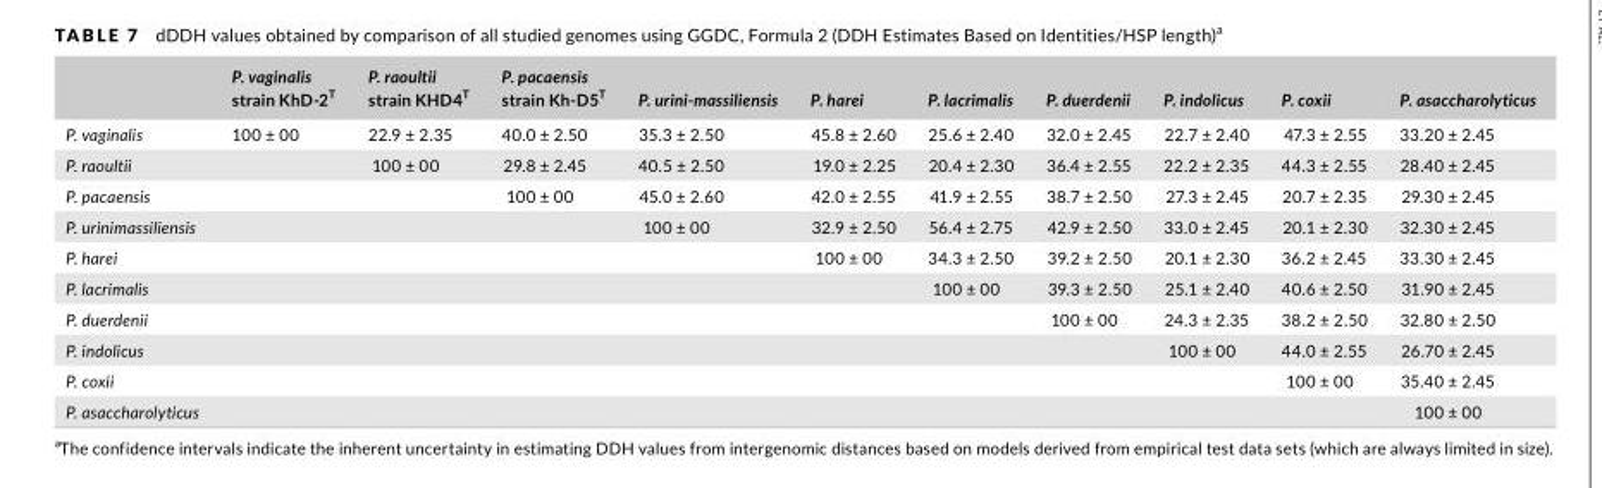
<table><thead><tr><td></td><td>P. vaginalis strain KhD- 2<sup>T</sup></td><td>P. raoultii strain KHD4<sup>T</sup></td><td>P. pacaensis strain Kh- D5<sup>T</sup></td><td>P. urini-massiliensis</td><td>P. harei</td><td>P. lacrimalis</td><td>P. duerdenii</td><td>P. indolicus</td><td>P. coxii</td><td>P. asaccharolyticus</td></tr></thead><tbody><tr><td>P. vaginalis</td><td>100 ± 00</td><td>22.9 ± 2.35</td><td>40.0 ± 2.50</td><td>35.3 ± 2.50</td><td>45.8 ± 2.60</td><td>25.6 ± 2.40</td><td>32.0 ± 2.45</td><td>22.7 ± 2.40</td><td>47.3 ± 2.55</td><td>33.20 ± 2.45</td></tr><tr><td>P. raoultii</td><td></td><td>100 ± 00</td><td>29.8 ± 2.45</td><td>40.5 ± 2.50</td><td>19.0 ± 2.25</td><td>20.4 ± 2.30</td><td>36.4 ± 2.55</td><td>22.2 ± 2.35</td><td>44.3 ± 2.55</td><td>28.40 ± 2.45</td></tr><tr><td>P. pacaensis</td><td></td><td></td><td>100 ± 00</td><td>45.0 ± 2.60</td><td>42.0 ± 2.55</td><td>41.9 ± 2.55</td><td>38.7 ± 2.50</td><td>27.3 ± 2.45</td><td>20.7 ± 2.35</td><td>29.30 ± 2.45</td></tr><tr><td>P. urinimassiliensis</td><td></td><td></td><td></td><td>100 ± 00</td><td>32.9 ± 2.50</td><td>56.4 ± 2.75</td><td>42.9 ± 2.50</td><td>33.0 ± 2.45</td><td>20.1 ± 2.30</td><td>32.30 ± 2.45</td></tr><tr><td>P. harei</td><td></td><td></td><td></td><td></td><td>100 ± 00</td><td>34.3 ± 2.50</td><td>39.2 ± 2.50</td><td>20.1 ± 2.30</td><td>36.2 ± 2.45</td><td>33.30 ± 2.45</td></tr><tr><td>P. lacrimalis</td><td></td><td></td><td></td><td></td><td></td><td>100 ± 00</td><td>39.3 ± 2.50</td><td>25.1 ± 2.40</td><td>40.6 ± 2.50</td><td>31.90 ± 2.45</td></tr><tr><td>P. duerdenii</td><td></td><td></td><td></td><td></td><td></td><td></td><td>100 ± 00</td><td>24.3 ± 2.35</td><td>38.2 ± 2.50</td><td>32.80 ± 2.50</td></tr><tr><td>P. indolicus</td><td></td><td></td><td></td><td></td><td></td><td></td><td></td><td>100 ± 00</td><td>44.0 ± 2.55</td><td>26.70 ± 2.45</td></tr><tr><td>P. coxii</td><td></td><td></td><td></td><td></td><td></td><td></td><td></td><td></td><td>100 ± 00</td><td>35.40 ± 2.45</td></tr><tr><td>P. asaccharolyticus</td><td></td><td></td><td></td><td></td><td></td><td></td><td></td><td></td><td></td><td>100 ± 00</td></tr></tbody></table>